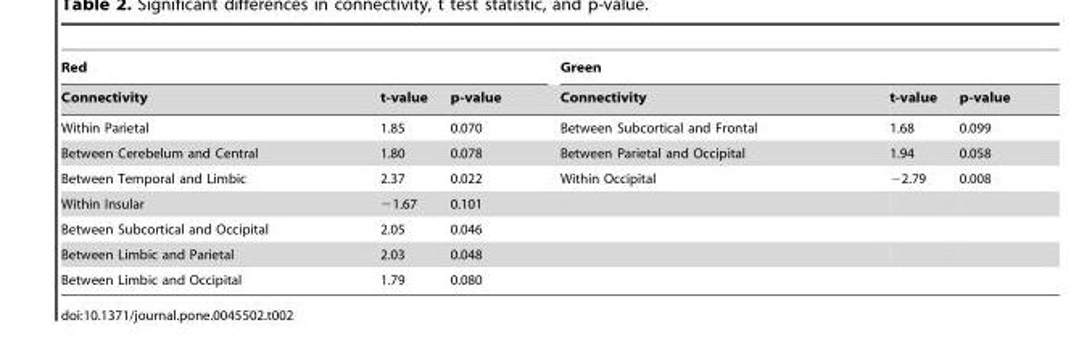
<table><thead><tr><td colspan="3">Red</td><td colspan="3">Green</td></tr><tr><td>Connectivity</td><td>t-value</td><td>p-value</td><td>Connectivity</td><td>t-value</td><td>p-value</td></tr></thead><tbody><tr><td>Within Parietal</td><td>1.85</td><td>0.070</td><td>Between Subcortical and Frontal</td><td>1.68</td><td>0.099</td></tr><tr><td>Between Cerebelum and Central</td><td>1.80</td><td>0.078</td><td>Between Parietal and Occipital</td><td>1.94</td><td>0.058</td></tr><tr><td>Between Temporal and Limbic</td><td>2.37</td><td>0.022</td><td>Within Occipital</td><td>−2.79</td><td>0.008</td></tr><tr><td>Within Insular</td><td>−1.67</td><td>0.101</td><td></td><td></td><td></td></tr><tr><td>Between Subcortical and Occipital</td><td>2.05</td><td>0.046</td><td></td><td></td><td></td></tr><tr><td>Between Limbic and Parietal</td><td>2.03</td><td>0.048</td><td></td><td></td><td></td></tr><tr><td>Between Limbic and Occipital</td><td>1.79</td><td>0.080</td><td></td><td></td><td></td></tr></tbody></table>